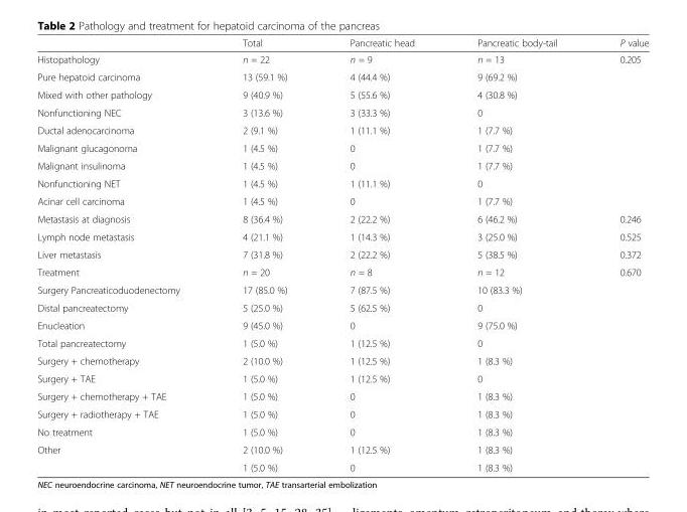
<table><thead><tr><td></td><td>Total</td><td>Pancreatic head</td><td>Pancreatic body-tail</td><td>P value</td></tr></thead><tbody><tr><td>Histopathology</td><td>n = 22</td><td>n = 9</td><td>n = 13</td><td>0.205</td></tr><tr><td>Pure hepatoid carcinoma</td><td>13 (59.1 %)</td><td>4 (44.4 %)</td><td>9 (69.2 %)</td><td></td></tr><tr><td>Mixed with other pathology</td><td>9 (40.9 %)</td><td>5 (55.6 %)</td><td>4 (30.8 %)</td><td></td></tr><tr><td>Nonfunctioning NEC</td><td>3 (13.6 %)</td><td>3 (33.3 %)</td><td>0</td><td></td></tr><tr><td>Ductal adenocarcinoma</td><td>2 (9.1 %)</td><td>1 (11.1 %)</td><td>1 (7.7 %)</td><td></td></tr><tr><td>Malignant glucagonoma</td><td>1 (4.5 %)</td><td>0</td><td>1 (7.7 %)</td><td></td></tr><tr><td>Malignant insulinoma</td><td>1 (4.5 %)</td><td>0</td><td>1 (7.7 %)</td><td></td></tr><tr><td>Nonfunctioning NET</td><td>1 (4.5 %)</td><td>1 (11.1 %)</td><td>0</td><td></td></tr><tr><td>Acinar cell carcinoma</td><td>1 (4.5 %)</td><td>0</td><td>1 (7.7 %)</td><td></td></tr><tr><td>Metastasis at diagnosis</td><td>8 (36.4 %)</td><td>2 (22.2 %)</td><td>6 (46.2 %)</td><td>0.246</td></tr><tr><td>Lymph node metastasis</td><td>4 (21.1 %)</td><td>1 (14.3 %)</td><td>3 (25.0 %)</td><td>0.525</td></tr><tr><td>Liver metastasis</td><td>7 (31.8 %)</td><td>2 (22.2 %)</td><td>5 (38.5 %)</td><td>0.372</td></tr><tr><td>Treatment</td><td>n = 20</td><td>n = 8</td><td>n = 12</td><td>0.670</td></tr><tr><td>Surgery Pancreaticoduodenectomy</td><td>17 (85.0 %)</td><td>7 (87.5 %)</td><td>10 (83.3 %)</td><td></td></tr><tr><td>Distal pancreatectomy</td><td>5 (25.0 %)</td><td>5 (62.5 %)</td><td>0</td><td></td></tr><tr><td>Enucleation</td><td>9 (45.0 %)</td><td>0</td><td>9 (75.0 %)</td><td></td></tr><tr><td>Total pancreatectomy</td><td>1 (5.0 %)</td><td>1 (12.5 %)</td><td>0</td><td></td></tr><tr><td>Surgery + chemotherapy</td><td>2 (10.0 %)</td><td>1 (12.5 %)</td><td>1 (8.3 %)</td><td></td></tr><tr><td>Surgery + TAE</td><td>1 (5.0 %)</td><td>1 (12.5 %)</td><td>0</td><td></td></tr><tr><td>Surgery + chemotherapy + TAE</td><td>1 (5.0 %)</td><td>0</td><td>1 (8.3 %)</td><td></td></tr><tr><td>Surgery + radiotherapy + TAE</td><td>1 (5.0 %)</td><td>0</td><td>1 (8.3 %)</td><td></td></tr><tr><td>No treatment</td><td>1 (5.0 %)</td><td>0</td><td>1 (8.3 %)</td><td></td></tr><tr><td rowspan="2">Other</td><td>2 (10.0 %)</td><td>1 (12.5 %)</td><td>1 (8.3 %)</td><td></td></tr><tr><td>1 (5.0 %)</td><td>0</td><td>1 (8.3 %)</td><td></td></tr></tbody></table>